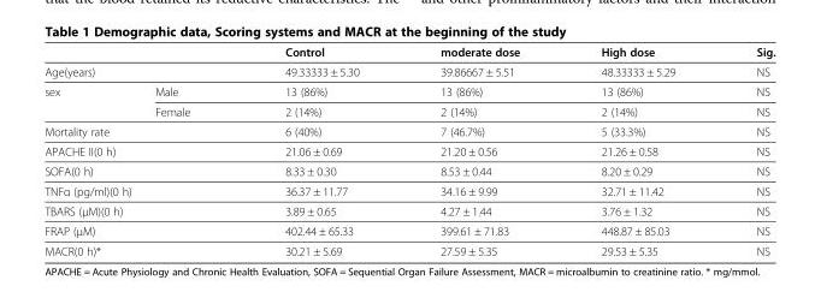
<table><thead><tr><td></td><td></td><td>Control</td><td>moderate dose</td><td>High dose</td><td>Sig.</td></tr></thead><tbody><tr><td colspan="2">Age(years)</td><td>49.33333 ± 5.30</td><td>39.86667 ± 5.51</td><td>48.33333 ± 5.29</td><td>NS</td></tr><tr><td rowspan="2">sex</td><td>Male</td><td>13 (86%)</td><td>13 (86%)</td><td>13 (86%)</td><td>NS</td></tr><tr><td>Female</td><td>2 (14%)</td><td>2 (14%)</td><td>2 (14%)</td><td>NS</td></tr><tr><td colspan="2">Mortality rate</td><td>6 (40%)</td><td>7 (46.7%)</td><td>5 (33.3%)</td><td>NS</td></tr><tr><td colspan="2">APACHE II(0 h)</td><td>21.06 ± 0.69</td><td>21.20 ± 0.56</td><td>21.26 ± 0.58</td><td>NS</td></tr><tr><td colspan="2">SOFA(0 h)</td><td>8.33 ± 0.30</td><td>8.53 ± 0.44</td><td>8.20 ± 0.29</td><td>NS</td></tr><tr><td colspan="2">TNFα (pg/ml)(0 h)</td><td>36.37 ± 11.77</td><td>34.16 ± 9.99</td><td>32.71 ± 11.42</td><td>NS</td></tr><tr><td colspan="2">TBARS (μM)(0 h)</td><td>3.89 ± 0.65</td><td>4.27 ± 1.44</td><td>3.76 ± 1.32</td><td>NS</td></tr><tr><td colspan="2">FRAP (μM)</td><td>402.44 ± 65.33</td><td>399.61 ± 71.83</td><td>448.87 ± 85.03</td><td>NS</td></tr><tr><td colspan="2">MACR(0 h)*</td><td>30.21 ± 5.69</td><td>27.59 ± 5.35</td><td>29.53 ± 5.35</td><td>NS</td></tr></tbody></table>